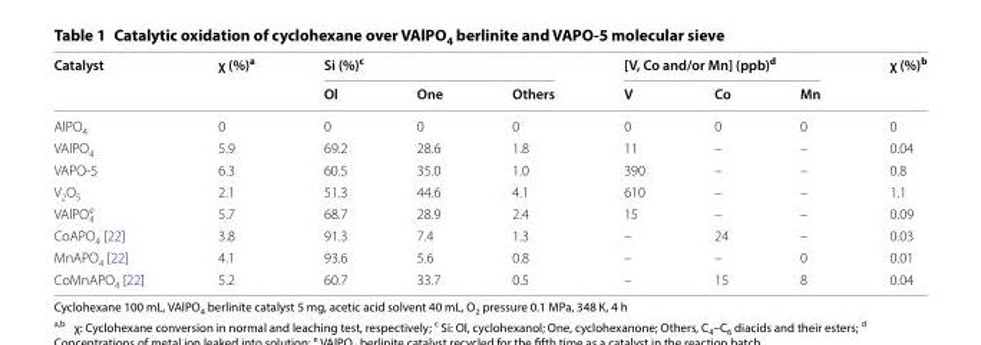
<table><thead><tr><td rowspan="2">Catalyst</td><td rowspan="2">χ (%)<sup>a</sup></td><td colspan="3">Si (%)<sup>c</sup></td><td colspan="3">[V, Co and/or Mn] (ppb)<sup>d</sup></td><td rowspan="2">χ (%)<sup>b</sup></td></tr><tr><td>Ol</td><td>One</td><td>Others</td><td>V</td><td>Co</td><td>Mn</td></tr></thead><tbody><tr><td>AlPO<sub>4</sub></td><td>0</td><td>0</td><td>0</td><td>0</td><td>0</td><td>0</td><td>0</td><td>0</td></tr><tr><td>VAlPO<sub>4</sub></td><td>5.9</td><td>69.2</td><td>28.6</td><td>1.8</td><td>11</td><td>–</td><td>–</td><td>0.04</td></tr><tr><td>VAPO-5</td><td>6.3</td><td>60.5</td><td>35.0</td><td>1.0</td><td>390</td><td>–</td><td>–</td><td>0.8</td></tr><tr><td>V<sub>2</sub>O<sub>5</sub></td><td>2.1</td><td>51.3</td><td>44.6</td><td>4.1</td><td>610</td><td>–</td><td>–</td><td>1.1</td></tr><tr><td>VAlPO<sub>4</sub> <sup>e</sup></td><td>5.7</td><td>68.7</td><td>28.9</td><td>2.4</td><td>15</td><td>–</td><td>–</td><td>0.09</td></tr><tr><td>CoAPO<sub>4</sub> [22]</td><td>3.8</td><td>91.3</td><td>7.4</td><td>1.3</td><td>–</td><td>24</td><td>–</td><td>0.03</td></tr><tr><td>MnAPO<sub>4</sub> [22]</td><td>4.1</td><td>93.6</td><td>5.6</td><td>0.8</td><td>–</td><td>–</td><td>0</td><td>0.01</td></tr><tr><td>CoMnAPO<sub>4</sub> [22]</td><td>5.2</td><td>60.7</td><td>33.7</td><td>0.5</td><td>–</td><td>15</td><td>8</td><td>0.04</td></tr></tbody></table>